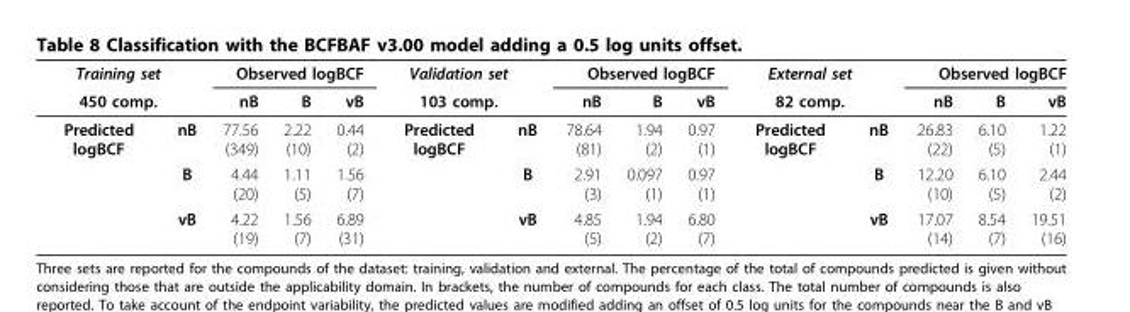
<table><thead><tr><td rowspan="2" colspan="2">Training set 450 comp.</td><td colspan="3">Observed logBCF</td><td rowspan="2" colspan="2">Validation set 103 comp.</td><td colspan="3">Observed logBCF</td><td rowspan="2" colspan="2">External set 82 comp.</td><td colspan="3">Observed logBCF</td></tr><tr><td rowspan="2">nB 77.56 (349)</td><td rowspan="2">B 2.22 (10)</td><td rowspan="2">vB 0.44 (2)</td><td rowspan="2">nB 78.64 (81)</td><td rowspan="2">B 1.94 (2)</td><td rowspan="2">vB 0.97 (1)</td><td rowspan="2">nB 26.83 (22)</td><td rowspan="2">B 6.10 (5)</td><td rowspan="2">vB 1.22 (1)</td></tr><tr><td>Predicted logBCF</td><td>nB</td><td>Predicted logBCF</td><td>nB</td><td>Predicted logBCF</td><td>nB</td></tr></thead><tbody><tr><td></td><td>B</td><td>4.44 (20)</td><td>1.11 (5)</td><td>1.56 (7)</td><td></td><td>B</td><td>2.91 (3)</td><td>0.097 (1)</td><td>0.97 (1)</td><td></td><td>B</td><td>12.20 (10)</td><td>6.10 (5)</td><td>2.44 (2)</td></tr><tr><td></td><td>vB</td><td>4.22 (19)</td><td>1.56 (7)</td><td>6.89 (31)</td><td></td><td>vB</td><td>4.85 (5)</td><td>1.94 (2)</td><td>6.80 (7)</td><td></td><td>vB</td><td>17.07 (14)</td><td>8.54 (7)</td><td>19.51 (16)</td></tr></tbody></table>